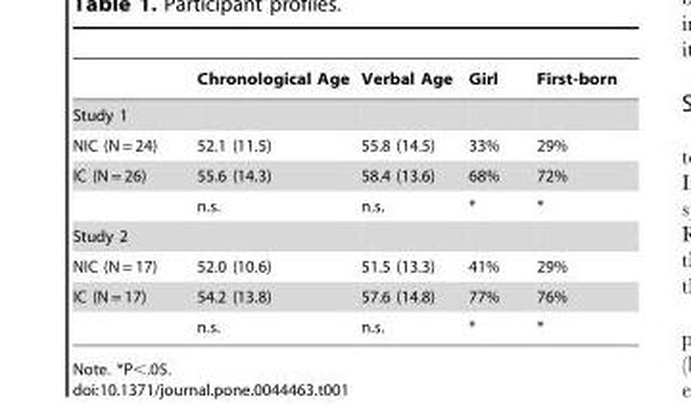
<table><thead><tr><td></td><td>Chronological Age</td><td>Verbal Age</td><td>Girl</td><td>First-born</td></tr></thead><tbody><tr><td colspan="5">Study 1</td></tr><tr><td>NIC (N = 24)</td><td>52.1 (11.5)</td><td>55.8 (14.5)</td><td>33%</td><td>29%</td></tr><tr><td rowspan="2">IC (N = 26)</td><td>55.6 (14.3)</td><td>58.4 (13.6)</td><td>68%</td><td>72%</td></tr><tr><td>n.s.</td><td>n.s.</td><td>*</td><td>*</td></tr><tr><td colspan="5">Study 2</td></tr><tr><td>NIC (N = 17)</td><td>52.0 (10.6)</td><td>51.5 (13.3)</td><td>41%</td><td>29%</td></tr><tr><td rowspan="2">IC (N = 17)</td><td>54.2 (13.8)</td><td>57.6 (14.8)</td><td>77%</td><td>76%</td></tr><tr><td>n.s.</td><td>n.s.</td><td>*</td><td>*</td></tr></tbody></table>